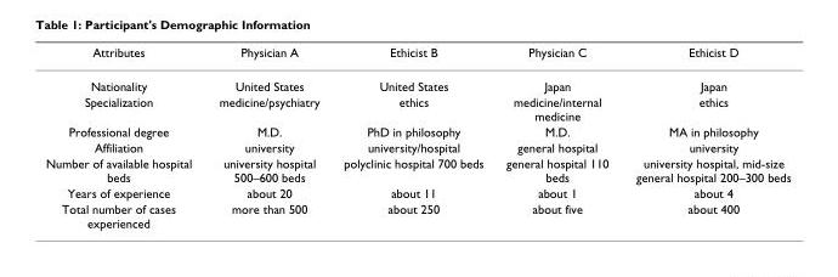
<table><thead><tr><td>Attributes</td><td>Physician A</td><td>Ethicist B</td><td>Physician C</td><td>Ethicist D</td></tr></thead><tbody><tr><td>Nationality</td><td>United States</td><td>United States</td><td>Japan</td><td>Japan</td></tr><tr><td>Specialization</td><td>medicine/psychiatry</td><td>ethics</td><td>medicine/internal medicine</td><td>ethics</td></tr><tr><td>Professional degree</td><td>M.D.</td><td>PhD in philosophy</td><td>M.D.</td><td>MA in philosophy</td></tr><tr><td>Affiliation</td><td>university</td><td>university/hospital</td><td>general hospital</td><td>university</td></tr><tr><td>Number of available hospital beds</td><td>university hospital 500–600 beds</td><td>polyclinic hospital 700 beds</td><td>general hospital 110 beds</td><td>university hospital, mid-size general hospital 200–300 beds</td></tr><tr><td>Years of experience</td><td>about 20</td><td>about 11</td><td>about 1</td><td>about 4</td></tr><tr><td>Total number of cases experienced</td><td>more than 500</td><td>about 250</td><td>about five</td><td>about 400</td></tr></tbody></table>